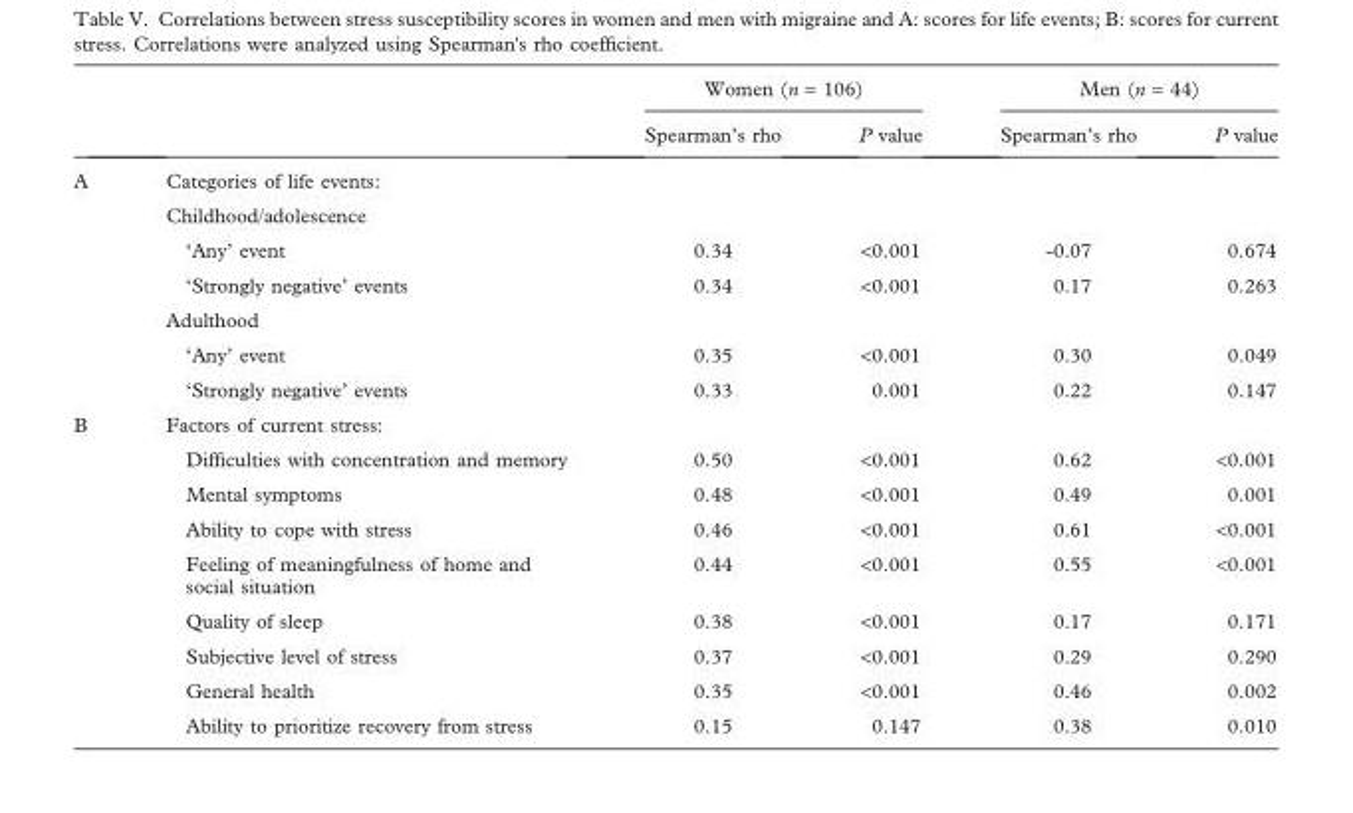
<table><thead><tr><td rowspan="2"></td><td rowspan="2"></td><td colspan="2">Women (n = 106)</td><td colspan="2">Men (n = 44)</td></tr><tr><td>Spearman’s rho</td><td>P value</td><td>Spearman’s rho</td><td>P value</td></tr></thead><tbody><tr><td rowspan="7">A</td><td>Categories of life events:</td><td></td><td></td><td></td><td></td></tr><tr><td>Childhood/adolescence</td><td></td><td></td><td></td><td></td></tr><tr><td>‘Any’ event</td><td>0.34</td><td>&lt;0.001</td><td>-0.07</td><td>0.674</td></tr><tr><td>‘Strongly negative’ events</td><td>0.34</td><td>&lt;0.001</td><td>0.17</td><td>0.263</td></tr><tr><td>Adulthood</td><td></td><td></td><td></td><td></td></tr><tr><td>‘Any’ event</td><td>0.35</td><td>&lt;0.001</td><td>0.30</td><td>0.049</td></tr><tr><td>‘Strongly negative’ events</td><td>0.33</td><td>0.001</td><td>0.22</td><td>0.147</td></tr><tr><td rowspan="9">B</td><td>Factors of current stress:</td><td></td><td></td><td></td><td></td></tr><tr><td>Difficulties with concentration and memory</td><td>0.50</td><td>&lt;0.001</td><td>0.62</td><td>&lt;0.001</td></tr><tr><td>Mental symptoms</td><td>0.48</td><td>&lt;0.001</td><td>0.49</td><td>0.001</td></tr><tr><td>Ability to cope with stress</td><td>0.46</td><td>&lt;0.001</td><td>0.61</td><td>&lt;0.001</td></tr><tr><td>Feeling of meaningfulness of home and social situation</td><td>0.44</td><td>&lt;0.001</td><td>0.55</td><td>&lt;0.001</td></tr><tr><td>Quality of sleep</td><td>0.38</td><td>&lt;0.001</td><td>0.17</td><td>0.171</td></tr><tr><td>Subjective level of stress</td><td>0.37</td><td>&lt;0.001</td><td>0.29</td><td>0.290</td></tr><tr><td>General health</td><td>0.35</td><td>&lt;0.001</td><td>0.46</td><td>0.002</td></tr><tr><td>Ability to prioritize recovery from stress</td><td>0.15</td><td>0.147</td><td>0.38</td><td>0.010</td></tr></tbody></table>